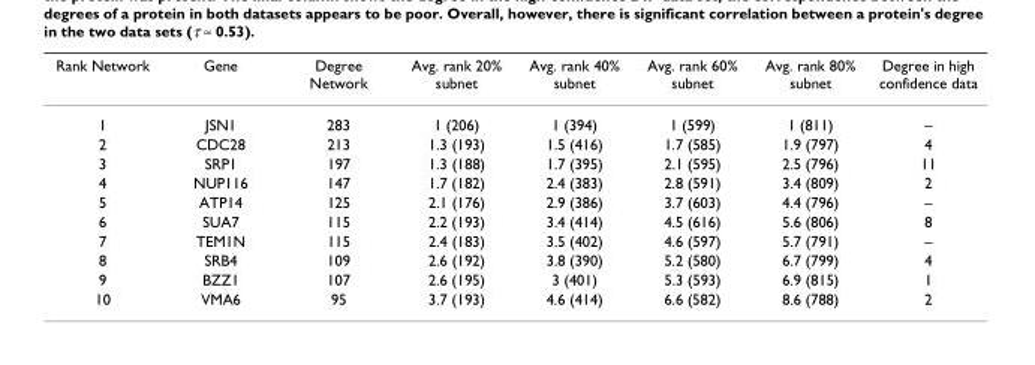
<table><thead><tr><td>Rank Network</td><td>Gene</td><td>Degree Network</td><td>Avg. rank 20% subnet</td><td>Avg. rank 40% subnet</td><td>Avg. rank 60% subnet</td><td>Avg. rank 80% subnet</td><td>Degree in high confidence data</td></tr></thead><tbody><tr><td>1</td><td>JSN1</td><td>283</td><td>1 (206)</td><td>1 (394)</td><td>1 (599)</td><td>1 (811)</td><td>–</td></tr><tr><td>2</td><td>CDC28</td><td>213</td><td>1.3 (193)</td><td>1.5 (416)</td><td>1.7 (585)</td><td>1.9 (797)</td><td>4</td></tr><tr><td>3</td><td>SRP1</td><td>197</td><td>1.3 (188)</td><td>1.7 (395)</td><td>2.1 (595)</td><td>2.5 (796)</td><td>11</td></tr><tr><td>4</td><td>NUP116</td><td>147</td><td>1.7 (182)</td><td>2.4 (383)</td><td>2.8 (591)</td><td>3.4 (809)</td><td>2</td></tr><tr><td>5</td><td>ATP14</td><td>125</td><td>2.1 (176)</td><td>2.9 (386)</td><td>3.7 (603)</td><td>4.4 (796)</td><td>–</td></tr><tr><td>6</td><td>SUA7</td><td>115</td><td>2.2 (193)</td><td>3.4 (414)</td><td>4.5 (616)</td><td>5.6 (806)</td><td>8</td></tr><tr><td>7</td><td>TEM1N</td><td>115</td><td>2.4 (183)</td><td>3.5 (402)</td><td>4.6 (597)</td><td>5.7 (791)</td><td>–</td></tr><tr><td>8</td><td>SRB4</td><td>109</td><td>2.6 (192)</td><td>3.8 (390)</td><td>5.2 (580)</td><td>6.7 (799)</td><td>4</td></tr><tr><td>9</td><td>BZZ1</td><td>107</td><td>2.6 (195)</td><td>3 (401)</td><td>5.3 (593)</td><td>6.9 (815)</td><td>1</td></tr><tr><td>10</td><td>VMA6</td><td>95</td><td>3.7 (193)</td><td>4.6 (414)</td><td>6.6 (582)</td><td>8.6 (788)</td><td>2</td></tr></tbody></table>